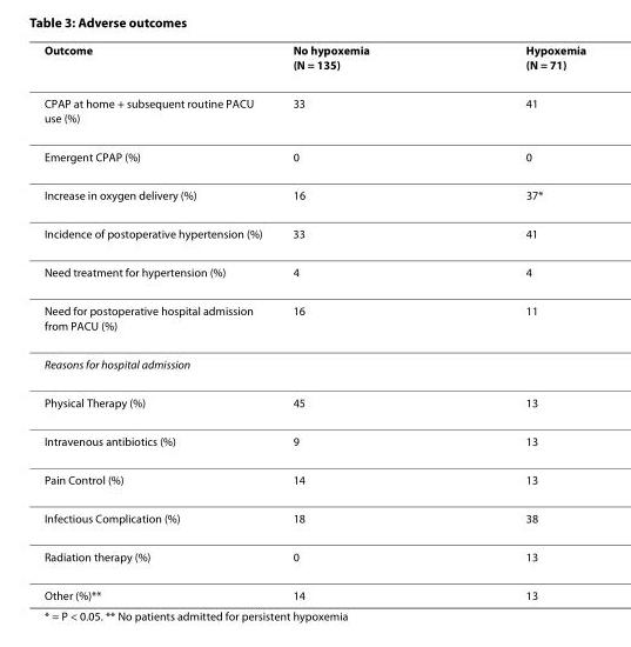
<table><thead><tr><td>Outcome</td><td>No hypoxemia (N = 135)</td><td>Hypoxemia (N = 71)</td></tr></thead><tbody><tr><td>CPAP at home + subsequent routine PACU use (%)</td><td>33</td><td>41</td></tr><tr><td>Emergent CPAP (%)</td><td>0</td><td>0</td></tr><tr><td>Increase in oxygen delivery (%)</td><td>16</td><td>37*</td></tr><tr><td>Incidence of postoperative hypertension (%)</td><td>33</td><td>41</td></tr><tr><td>Need treatment for hypertension (%)</td><td>4</td><td>4</td></tr><tr><td>Need for postoperative hospital admission from PACU (%)</td><td>16</td><td>11</td></tr><tr><td colspan="3">Reasons for hospital admission</td></tr><tr><td>Physical Therapy (%)</td><td>45</td><td>13</td></tr><tr><td>Intravenous antibiotics (%)</td><td>9</td><td>13</td></tr><tr><td>Pain Control (%)</td><td>14</td><td>13</td></tr><tr><td>Infectious Complication (%)</td><td>18</td><td>38</td></tr><tr><td>Radiation therapy (%)</td><td>0</td><td>13</td></tr><tr><td>Other (%)**</td><td>14</td><td>13</td></tr></tbody></table>